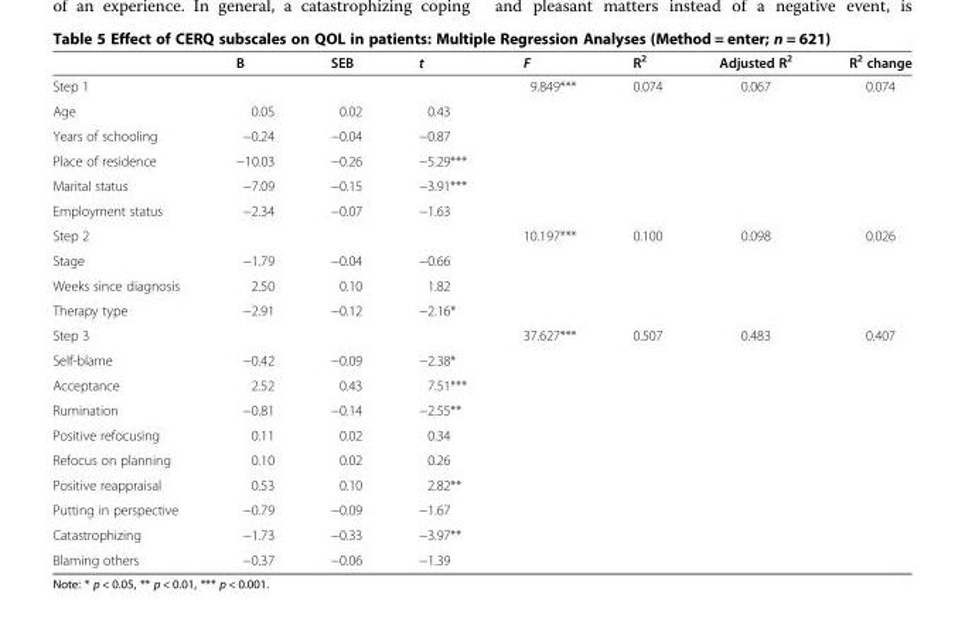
<table><thead><tr><td></td><td>B</td><td>SEB</td><td>t</td><td>F</td><td>R<sup>2</sup></td><td>Adjusted R<sup>2</sup></td><td>R<sup>2</sup> change</td></tr></thead><tbody><tr><td>Step 1</td><td></td><td></td><td></td><td>9.849***</td><td>0.074</td><td>0.067</td><td>0.074</td></tr><tr><td>Age</td><td>0.05</td><td>0.02</td><td>0.43</td><td></td><td></td><td></td><td></td></tr><tr><td>Years of schooling</td><td>−0.24</td><td>−0.04</td><td>−0.87</td><td></td><td></td><td></td><td></td></tr><tr><td>Place of residence</td><td>−10.03</td><td>−0.26</td><td>−5.29***</td><td></td><td></td><td></td><td></td></tr><tr><td>Marital status</td><td>−7.09</td><td>−0.15</td><td>−3.91***</td><td></td><td></td><td></td><td></td></tr><tr><td>Employment status</td><td>−2.34</td><td>−0.07</td><td>−1.63</td><td></td><td></td><td></td><td></td></tr><tr><td>Step 2</td><td></td><td></td><td></td><td>10.197***</td><td>0.100</td><td>0.098</td><td>0.026</td></tr><tr><td>Stage</td><td>−1.79</td><td>−0.04</td><td>−0.66</td><td></td><td></td><td></td><td></td></tr><tr><td>Weeks since diagnosis</td><td>2.50</td><td>0.10</td><td>1.82</td><td></td><td></td><td></td><td></td></tr><tr><td>Therapy type</td><td>−2.91</td><td>−0.12</td><td>−2.16*</td><td></td><td></td><td></td><td></td></tr><tr><td>Step 3</td><td></td><td></td><td></td><td>37.627***</td><td>0.507</td><td>0.483</td><td>0.407</td></tr><tr><td>Self-blame</td><td>−0.42</td><td>−0.09</td><td>−2.38*</td><td></td><td></td><td></td><td></td></tr><tr><td>Acceptance</td><td>2.52</td><td>0.43</td><td>7.51***</td><td></td><td></td><td></td><td></td></tr><tr><td>Rumination</td><td>−0.81</td><td>−0.14</td><td>−2.55**</td><td></td><td></td><td></td><td></td></tr><tr><td>Positive refocusing</td><td>0.11</td><td>0.02</td><td>0.34</td><td></td><td></td><td></td><td></td></tr><tr><td>Refocus on planning</td><td>0.10</td><td>0.02</td><td>0.26</td><td></td><td></td><td></td><td></td></tr><tr><td>Positive reappraisal</td><td>0.53</td><td>0.10</td><td>2.82**</td><td></td><td></td><td></td><td></td></tr><tr><td>Putting in perspective</td><td>−0.79</td><td>−0.09</td><td>−1.67</td><td></td><td></td><td></td><td></td></tr><tr><td>Catastrophizing</td><td>−1.73</td><td>−0.33</td><td>−3.97**</td><td></td><td></td><td></td><td></td></tr><tr><td>Blaming others</td><td>−0.37</td><td>−0.06</td><td>−1.39</td><td></td><td></td><td></td><td></td></tr></tbody></table>